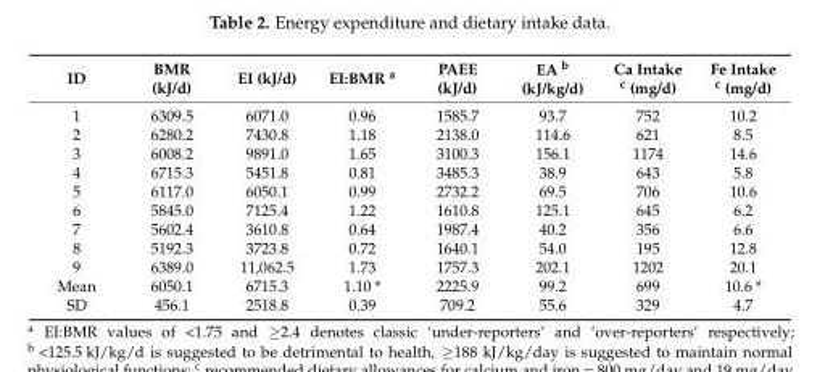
<table><thead><tr><td>ID</td><td>BMR (kJ/d)</td><td>EI (kJ/d)</td><td>EI:BMR <sup>a</sup></td><td>PAEE (kJ/d)</td><td>EA <sup>b</sup> (kJ/kg/d)</td><td>Ca Intake <sup>c</sup> (mg/d)</td><td>Fe Intake <sup>c</sup> (mg/d)</td></tr></thead><tbody><tr><td>1</td><td>6309.5</td><td>6071.0</td><td>0.96</td><td>1585.7</td><td>93.7</td><td>752</td><td>10.2</td></tr><tr><td>2</td><td>6280.2</td><td>7430.8</td><td>1.18</td><td>2138.0</td><td>114.6</td><td>621</td><td>8.5</td></tr><tr><td>3</td><td>6008.2</td><td>9891.0</td><td>1.65</td><td>3100.3</td><td>156.1</td><td>1174</td><td>14.6</td></tr><tr><td>4</td><td>6715.3</td><td>5451.8</td><td>0.81</td><td>3485.3</td><td>38.9</td><td>643</td><td>5.8</td></tr><tr><td>5</td><td>6117.0</td><td>6050.1</td><td>0.99</td><td>2732.2</td><td>69.5</td><td>706</td><td>10.6</td></tr><tr><td>6</td><td>5845.0</td><td>7125.4</td><td>1.22</td><td>1610.8</td><td>125.1</td><td>645</td><td>6.2</td></tr><tr><td>7</td><td>5602.4</td><td>3610.8</td><td>0.64</td><td>1987.4</td><td>40.2</td><td>356</td><td>6.6</td></tr><tr><td>8</td><td>5192.3</td><td>3723.8</td><td>0.72</td><td>1640.1</td><td>54.0</td><td>195</td><td>12.8</td></tr><tr><td>9</td><td>6389.0</td><td>11,062.5</td><td>1.73</td><td>1757.3</td><td>202.1</td><td>1202</td><td>20.1</td></tr><tr><td>Mean</td><td>6050.1</td><td>6715.3</td><td>1.10 *</td><td>2225.9</td><td>99.2</td><td>699</td><td>10.6 *</td></tr><tr><td>SD</td><td>456.1</td><td>2518.8</td><td>0.39</td><td>709.2</td><td>55.6</td><td>329</td><td>4.7</td></tr></tbody></table>